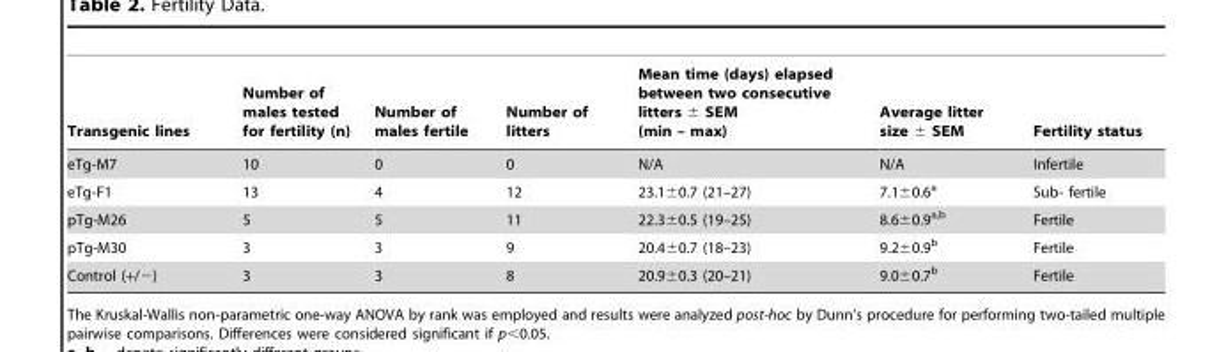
<table><thead><tr><td>Transgenic lines</td><td>Number of males tested for fertility (n)</td><td>Number of males fertile</td><td>Number of litters</td><td>Mean time (days) elapsed between two consecutive litters ± SEM (min – max)</td><td>Average litter size ± SEM</td><td>Fertility status</td></tr></thead><tbody><tr><td>eTg-M7</td><td>10</td><td>0</td><td>0</td><td>N/A</td><td>N/A</td><td>Infertile</td></tr><tr><td>eTg-F1</td><td>13</td><td>4</td><td>12</td><td>23.1±0.7 (21–27)</td><td>7.1±0.6<sup>a</sup></td><td>Sub- fertile</td></tr><tr><td>pTg-M26</td><td>5</td><td>5</td><td>11</td><td>22.3±0.5 (19–25)</td><td>8.6±0.9<sup>a,b</sup></td><td>Fertile</td></tr><tr><td>pTg-M30</td><td>3</td><td>3</td><td>9</td><td>20.4±0.7 (18–23)</td><td>9.2±0.9<sup>b</sup></td><td>Fertile</td></tr><tr><td>Control (+/−)</td><td>3</td><td>3</td><td>8</td><td>20.9±0.3 (20–21)</td><td>9.0±0.7<sup>b</sup></td><td>Fertile</td></tr></tbody></table>